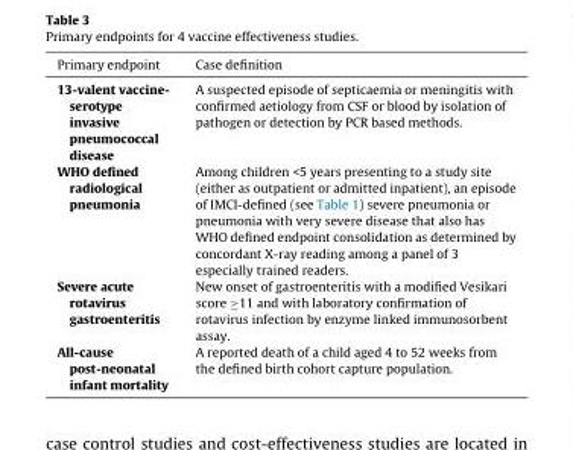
<table><thead><tr><td>Primary endpoint</td><td>Case definition</td></tr></thead><tbody><tr><td>13-valent vaccine- serotype invasive pneumococcal disease</td><td>A suspected episode of septicaemia or meningitis with confirmed aetiology from CSF or blood by isolation of pathogen or detection by PCR based methods.</td></tr><tr><td>WHO defined radiological pneumonia</td><td>Among children &lt;5 years presenting to a study site (either as outpatient or admitted inpatient), an episode of IMCI-defined (see Table 1) severe pneumonia or pneumonia with very severe disease that also has WHO defined endpoint consolidation as determined by concordant X-ray reading among a panel of 3 especially trained readers.</td></tr><tr><td>Severe acute rotavirus gastroenteritis</td><td>New onset of gastroenteritis with a modified Vesikari score ≥11 and with laboratory confirmation of rotavirus infection by enzyme linked immunosorbent assay.</td></tr><tr><td>All-cause post-neonatal infant mortality</td><td>A reported death of a child aged 4 to 52 weeks from the defined birth cohort capture population.</td></tr></tbody></table>